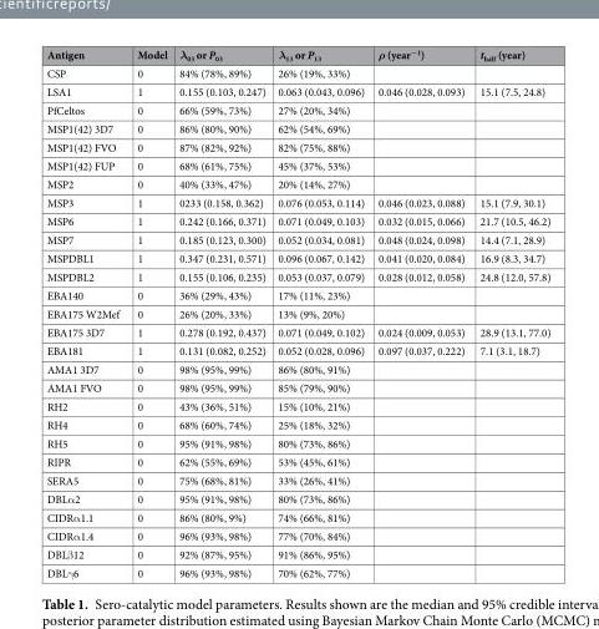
<table><thead><tr><td>Antigen</td><td>Model</td><td>λ<sub>03</sub> or P<sub>03</sub></td><td>λ<sub>13</sub> or P<sub>13</sub></td><td>ρ (year<sup>−1</sup>)</td><td>t<sub>half</sub> (year)</td></tr></thead><tbody><tr><td>CSP</td><td>0</td><td>84% (78%, 89%)</td><td>26% (19%, 33%)</td><td></td><td></td></tr><tr><td>LSA1</td><td>1</td><td>0.155 (0.103, 0.247)</td><td>0.063 (0.043, 0.096)</td><td>0.046 (0.028, 0.093)</td><td>15.1 (7.5, 24.8)</td></tr><tr><td>PfCeltos</td><td>0</td><td>66% (59%, 73%)</td><td>27% (20%, 34%)</td><td></td><td></td></tr><tr><td>MSP1(42) 3D7</td><td>0</td><td>86% (80%, 90%)</td><td>62% (54%, 69%)</td><td></td><td></td></tr><tr><td>MSP1(42) FVO</td><td>0</td><td>87% (82%, 92%)</td><td>82% (75%, 88%)</td><td></td><td></td></tr><tr><td>MSP1(42) FUP</td><td>0</td><td>68% (61%, 75%)</td><td>45% (37%, 53%)</td><td></td><td></td></tr><tr><td>MSP2</td><td>0</td><td>40% (33%, 47%)</td><td>20% (14%, 27%)</td><td></td><td></td></tr><tr><td>MSP3</td><td>1</td><td>0233 (0.158, 0.362)</td><td>0.076 (0.053, 0.114)</td><td>0.046 (0.023, 0.088)</td><td>15.1 (7.9, 30.1)</td></tr><tr><td>MSP6</td><td>1</td><td>0.242 (0.166, 0.371)</td><td>0.071 (0.049, 0.103)</td><td>0.032 (0.015, 0.066)</td><td>21.7 (10.5, 46.2)</td></tr><tr><td>MSP7</td><td>1</td><td>0.185 (0.123, 0.300)</td><td>0.052 (0.034, 0.081)</td><td>0.048 (0.024, 0.098)</td><td>14.4 (7.1, 28.9)</td></tr><tr><td>MSPDBL1</td><td>1</td><td>0.347 (0.231, 0.571)</td><td>0.096 (0.067, 0.142)</td><td>0.041 (0.020, 0.084)</td><td>16.9 (8.3, 34.7)</td></tr><tr><td>MSPDBL2</td><td>1</td><td>0.155 (0.106, 0.235)</td><td>0.053 (0.037, 0.079)</td><td>0.028 (0.012, 0.058)</td><td>24.8 (12.0, 57.8)</td></tr><tr><td>EBA140</td><td>0</td><td>36% (29%, 43%)</td><td>17% (11%, 23%)</td><td></td><td></td></tr><tr><td>EBA175 W2Mef</td><td>0</td><td>26% (20%, 33%)</td><td>13% (9%, 20%)</td><td></td><td></td></tr><tr><td>EBA175 3D7</td><td>1</td><td>0.278 (0.192, 0.437)</td><td>0.071 (0.049, 0.102)</td><td>0.024 (0.009, 0.053)</td><td>28.9 (13.1, 77.0)</td></tr><tr><td>EBA181</td><td>1</td><td>0.131 (0.082, 0.252)</td><td>0.052 (0.028, 0.096)</td><td>0.097 (0.037, 0.222)</td><td>7.1 (3.1, 18.7)</td></tr><tr><td>AMA1 3D7</td><td>0</td><td>98% (95%, 99%)</td><td>86% (80%, 91%)</td><td></td><td></td></tr><tr><td>AMA1 FVO</td><td>0</td><td>98% (95%, 99%)</td><td>85% (79%, 90%)</td><td></td><td></td></tr><tr><td>RH2</td><td>0</td><td>43% (36%, 51%)</td><td>15% (10%, 21%)</td><td></td><td></td></tr><tr><td>RH4</td><td>0</td><td>68% (60%, 74%)</td><td>25% (18%, 32%)</td><td></td><td></td></tr><tr><td>RH5</td><td>0</td><td>95% (91%, 98%)</td><td>80% (73%, 86%)</td><td></td><td></td></tr><tr><td>RIPR</td><td>0</td><td>62% (55%, 69%)</td><td>53% (45%, 61%)</td><td></td><td></td></tr><tr><td>SERA5</td><td>0</td><td>75% (68%, 81%)</td><td>33% (26%, 41%)</td><td></td><td></td></tr><tr><td>DBLα2</td><td>0</td><td>95% (91%, 98%)</td><td>80% (73%, 86%)</td><td></td><td></td></tr><tr><td>CIDRα1.1</td><td>0</td><td>86% (80%, 9%)</td><td>74% (66%, 81%)</td><td></td><td></td></tr><tr><td>CIDRα1.4</td><td>0</td><td>96% (93%, 98%)</td><td>77% (70%, 84%)</td><td></td><td></td></tr><tr><td>DBLβ12</td><td>0</td><td>92% (87%, 95%)</td><td>91% (86%, 95%)</td><td></td><td></td></tr><tr><td>DBLγ6</td><td>0</td><td>96% (93%, 98%)</td><td>70% (62%, 77%)</td><td></td><td></td></tr></tbody></table>